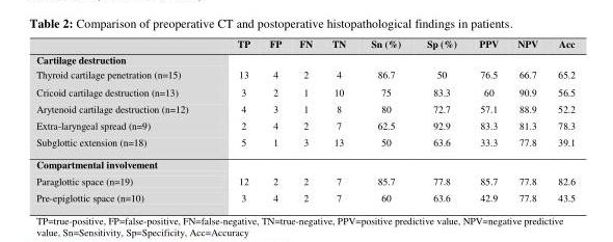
<table><thead><tr><td></td><td>TP</td><td>FP</td><td>FN</td><td>TN</td><td>Sn (%)</td><td>Sp (%)</td><td>PPV</td><td>NPV</td><td>Acc</td></tr></thead><tbody><tr><td colspan="10">Cartilage destruction</td></tr><tr><td>Thyroid cartilage penetration (n=15)</td><td>13</td><td>4</td><td>2</td><td>4</td><td>86.7</td><td>50</td><td>76.5</td><td>66.7</td><td>65.2</td></tr><tr><td>Cricoid cartilage destruction (n=13)</td><td>3</td><td>2</td><td>1</td><td>10</td><td>75</td><td>83.3</td><td>60</td><td>90.9</td><td>56.5</td></tr><tr><td>Arytenoid cartilage destruction (n=12)</td><td>4</td><td>3</td><td>1</td><td>8</td><td>80</td><td>72.7</td><td>57.1</td><td>88.9</td><td>52.2</td></tr><tr><td>Extra-laryngeal spread (n=9)</td><td>2</td><td>4</td><td>2</td><td>7</td><td>62.5</td><td>92.9</td><td>83.3</td><td>81.3</td><td>78.3</td></tr><tr><td>Subglottic extension (n=18)</td><td>5</td><td>1</td><td>3</td><td>13</td><td>50</td><td>63.6</td><td>33.3</td><td>77.8</td><td>39.1</td></tr><tr><td colspan="10">Compartmental involvement</td></tr><tr><td>Paraglottic space (n=19)</td><td>12</td><td>2</td><td>2</td><td>7</td><td>85.7</td><td>77.8</td><td>85.7</td><td>77.8</td><td>82.6</td></tr><tr><td>Pre-epiglottic space (n=10)</td><td>3</td><td>4</td><td>2</td><td>7</td><td>60</td><td>63.6</td><td>42.9</td><td>77.8</td><td>43.5</td></tr></tbody></table>